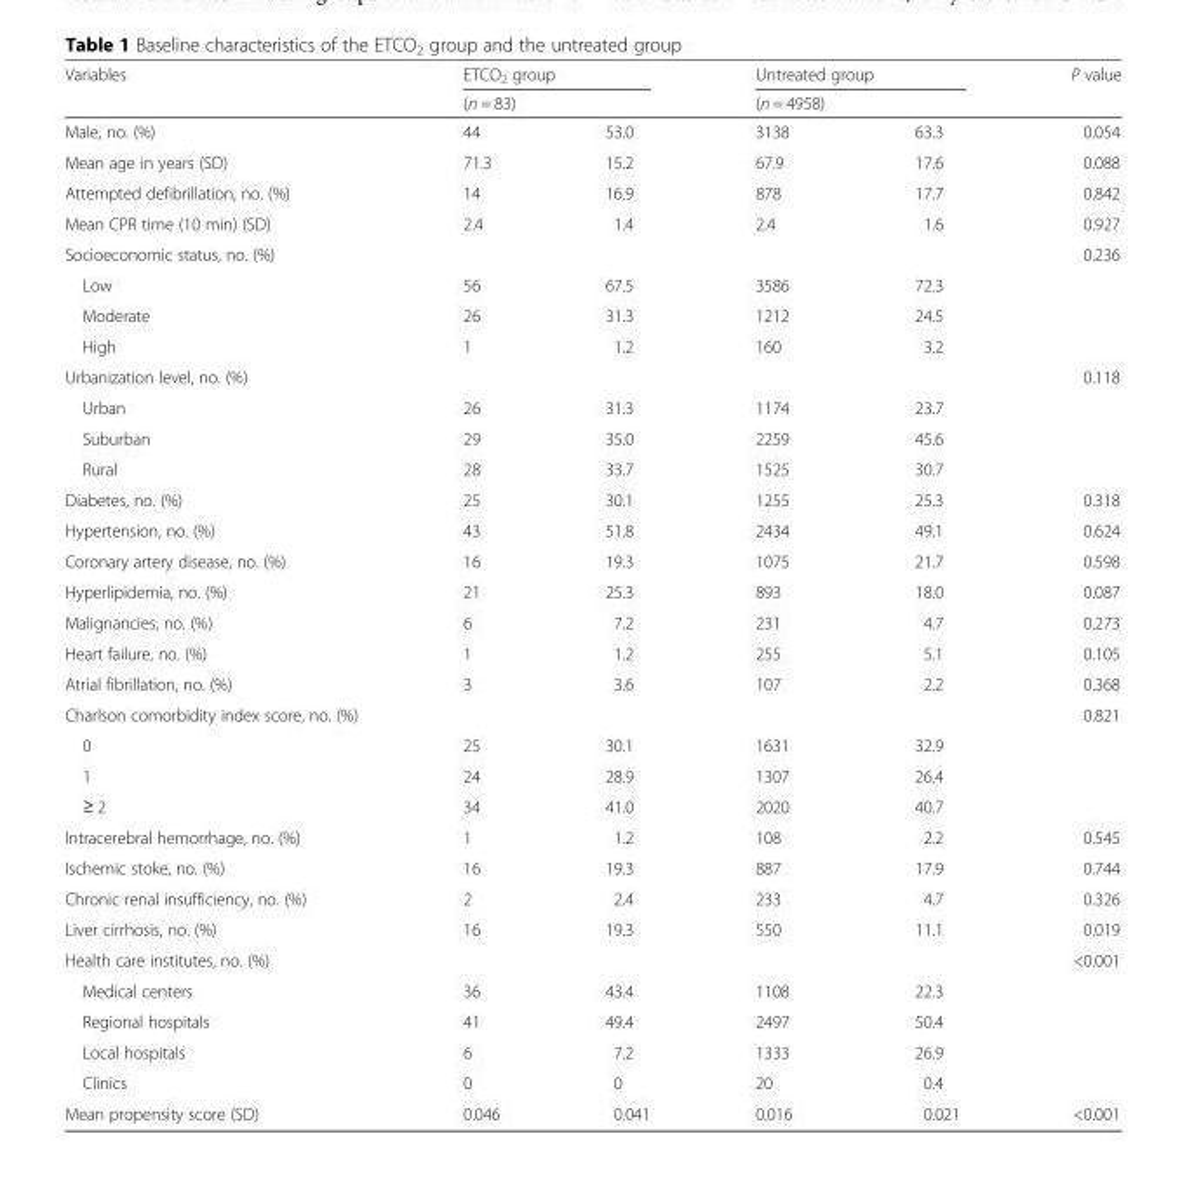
<table><thead><tr><td rowspan="3">Variables Male, no. (%)</td><td rowspan="2" colspan="2">ETCO<sub>2</sub> group (n = 83)</td><td rowspan="2" colspan="2">Untreated group (n = 4958)</td><td rowspan="3">P value 0.054</td></tr><tr></tr><tr><td>44</td><td>53.0</td><td>3138</td><td>63.3</td></tr></thead><tbody><tr><td>Mean age in years (SD)</td><td>71.3</td><td>15.2</td><td>67.9</td><td>17.6</td><td>0.088</td></tr><tr><td>Attempted defibrillation, no. (%)</td><td>14</td><td>16.9</td><td>878</td><td>17.7</td><td>0.842</td></tr><tr><td>Mean CPR time (10 min) (SD)</td><td>2.4</td><td>1.4</td><td>2.4</td><td>1.6</td><td>0.927</td></tr><tr><td>Socioeconomic status, no. (%)</td><td></td><td></td><td></td><td></td><td>0.236</td></tr><tr><td>Low</td><td>56</td><td>67.5</td><td>3586</td><td>72.3</td><td></td></tr><tr><td>Moderate</td><td>26</td><td>31.3</td><td>1212</td><td>24.5</td><td></td></tr><tr><td>High</td><td>1</td><td>1.2</td><td>160</td><td>3.2</td><td></td></tr><tr><td>Urbanization level, no. (%)</td><td></td><td></td><td></td><td></td><td>0.118</td></tr><tr><td>Urban</td><td>26</td><td>31.3</td><td>1174</td><td>23.7</td><td></td></tr><tr><td>Suburban</td><td>29</td><td>35.0</td><td>2259</td><td>45.6</td><td></td></tr><tr><td>Rural</td><td>28</td><td>33.7</td><td>1525</td><td>30.7</td><td></td></tr><tr><td>Diabetes, no. (%)</td><td>25</td><td>30.1</td><td>1255</td><td>25.3</td><td>0.318</td></tr><tr><td>Hypertension, no. (%)</td><td>43</td><td>51.8</td><td>2434</td><td>49.1</td><td>0.624</td></tr><tr><td>Coronary artery disease, no. (%)</td><td>16</td><td>19.3</td><td>1075</td><td>21.7</td><td>0.598</td></tr><tr><td>Hyperlipidemia, no. (%)</td><td>21</td><td>25.3</td><td>893</td><td>18.0</td><td>0.087</td></tr><tr><td>Malignancies, no. (%)</td><td>6</td><td>7.2</td><td>231</td><td>4.7</td><td>0.273</td></tr><tr><td>Heart failure, no. (%)</td><td>1</td><td>1.2</td><td>255</td><td>5.1</td><td>0.105</td></tr><tr><td>Atrial fibrillation, no. (%)</td><td>3</td><td>3.6</td><td>107</td><td>2.2</td><td>0.368</td></tr><tr><td>Charlson comorbidity index score, no. (%)</td><td></td><td></td><td></td><td></td><td>0.821</td></tr><tr><td>0</td><td>25</td><td>30.1</td><td>1631</td><td>32.9</td><td></td></tr><tr><td>1</td><td>24</td><td>28.9</td><td>1307</td><td>26.4</td><td></td></tr><tr><td>≥ 2</td><td>34</td><td>41.0</td><td>2020</td><td>40.7</td><td></td></tr><tr><td>Intracerebral hemorrhage, no. (%)</td><td>1</td><td>1.2</td><td>108</td><td>2.2</td><td>0.545</td></tr><tr><td>Ischemic stoke, no. (%)</td><td>16</td><td>19.3</td><td>887</td><td>17.9</td><td>0.744</td></tr><tr><td>Chronic renal insufficiency, no. (%)</td><td>2</td><td>2.4</td><td>233</td><td>4.7</td><td>0.326</td></tr><tr><td>Liver cirrhosis, no. (%)</td><td>16</td><td>19.3</td><td>550</td><td>11.1</td><td>0.019</td></tr><tr><td>Health care institutes, no. (%)</td><td></td><td></td><td></td><td></td><td>&lt;0.001</td></tr><tr><td>Medical centers</td><td>36</td><td>43.4</td><td>1108</td><td>22.3</td><td></td></tr><tr><td>Regional hospitals</td><td>41</td><td>49.4</td><td>2497</td><td>50.4</td><td></td></tr><tr><td>Local hospitals</td><td>6</td><td>7.2</td><td>1333</td><td>26.9</td><td></td></tr><tr><td>Clinics</td><td>0</td><td>0</td><td>20</td><td>0.4</td><td></td></tr><tr><td>Mean propensity score (SD)</td><td>0.046</td><td>0.041</td><td>0.016</td><td>0.021</td><td>&lt;0.001</td></tr></tbody></table>